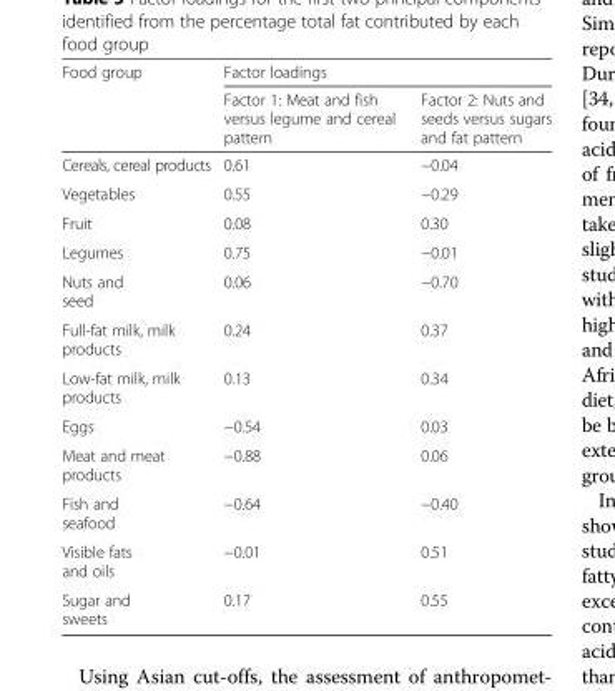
<table><thead><tr><td rowspan="2">Food group</td><td colspan="2">Factor loadings</td></tr><tr><td>Factor 1: Meat and fish versus legume and cereal pattern</td><td>Factor 2: Nuts and seeds versus sugars and fat pattern</td></tr></thead><tbody><tr><td>Cereals, cereal products</td><td>0.61</td><td>−0.04</td></tr><tr><td>Vegetables</td><td>0.55</td><td>−0.29</td></tr><tr><td>Fruit</td><td>0.08</td><td>0.30</td></tr><tr><td>Legumes</td><td>0.75</td><td>−0.01</td></tr><tr><td>Nuts and seed</td><td>0.06</td><td>−0.70</td></tr><tr><td>Full-fat milk, milk products</td><td>0.24</td><td>0.37</td></tr><tr><td>Low-fat milk, milk products</td><td>0.13</td><td>0.34</td></tr><tr><td>Eggs</td><td>−0.54</td><td>0.03</td></tr><tr><td>Meat and meat products</td><td>−0.88</td><td>0.06</td></tr><tr><td>Fish and seafood</td><td>−0.64</td><td>−0.40</td></tr><tr><td>Visible fats and oils</td><td>−0.01</td><td>0.51</td></tr><tr><td>Sugar and sweets</td><td>0.17</td><td>0.55</td></tr></tbody></table>